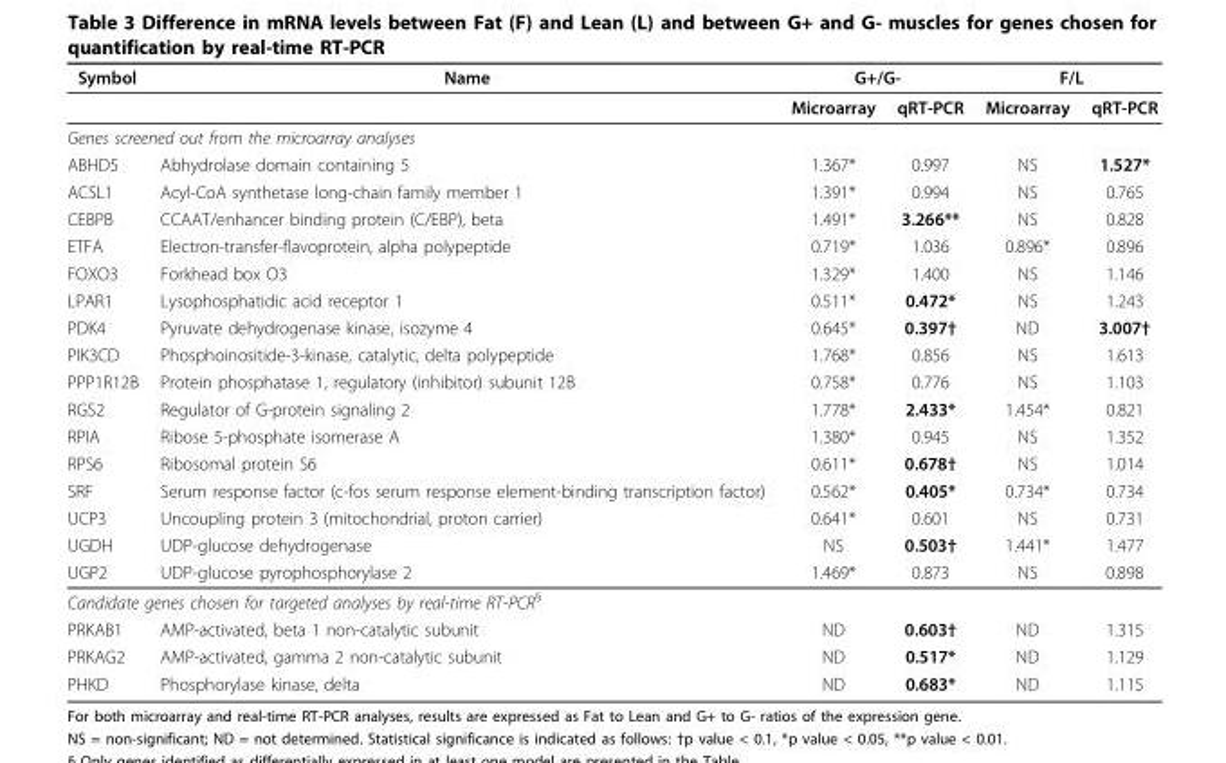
<table><thead><tr><td rowspan="2">Symbol</td><td rowspan="2">Name</td><td colspan="2">G+/G-</td><td colspan="2">F/L</td></tr><tr><td>Microarray</td><td>qRT-PCR</td><td>Microarray</td><td>qRT-PCR</td></tr></thead><tbody><tr><td colspan="6">Genes screened out from the microarray analyses</td></tr><tr><td>ABHD5</td><td>Abhydrolase domain containing 5</td><td>1.367*</td><td>0.997</td><td>NS</td><td>1.527*</td></tr><tr><td>ACSL1</td><td>Acyl-CoA synthetase long-chain family member 1</td><td>1.391*</td><td>0.994</td><td>NS</td><td>0.765</td></tr><tr><td>CEBPB</td><td>CCAAT/enhancer binding protein (C/EBP), beta</td><td>1.491*</td><td>3.266**</td><td>NS</td><td>0.828</td></tr><tr><td>ETFA</td><td>Electron-transfer-flavoprotein, alpha polypeptide</td><td>0.719*</td><td>1.036</td><td>0.896*</td><td>0.896</td></tr><tr><td>FOXO3</td><td>Forkhead box O3</td><td>1.329*</td><td>1.400</td><td>NS</td><td>1.146</td></tr><tr><td>LPAR1</td><td>Lysophosphatidic acid receptor 1</td><td>0.511*</td><td>0.472*</td><td>NS</td><td>1.243</td></tr><tr><td>PDK4</td><td>Pyruvate dehydrogenase kinase, isozyme 4</td><td>0.645*</td><td>0.397†</td><td>ND</td><td>3.007†</td></tr><tr><td>PIK3CD</td><td>Phosphoinositide-3-kinase, catalytic, delta polypeptide</td><td>1.768*</td><td>0.856</td><td>NS</td><td>1.613</td></tr><tr><td>PPP1R12B</td><td>Protein phosphatase 1, regulatory (inhibitor) subunit 12B</td><td>0.758*</td><td>0.776</td><td>NS</td><td>1.103</td></tr><tr><td>RGS2</td><td>Regulator of G-protein signaling 2</td><td>1.778*</td><td>2.433*</td><td>1.454*</td><td>0.821</td></tr><tr><td>RPIA</td><td>Ribose 5-phosphate isomerase A</td><td>1.380*</td><td>0.945</td><td>NS</td><td>1.352</td></tr><tr><td>RPS6</td><td>Ribosomal protein S6</td><td>0.611*</td><td>0.678†</td><td>NS</td><td>1.014</td></tr><tr><td>SRF</td><td>Serum response factor (c-fos serum response element-binding transcription factor)</td><td>0.562*</td><td>0.405*</td><td>0.734*</td><td>0.734</td></tr><tr><td>UCP3</td><td>Uncoupling protein 3 (mitochondrial, proton carrier)</td><td>0.641*</td><td>0.601</td><td>NS</td><td>0.731</td></tr><tr><td>UGDH</td><td>UDP-glucose dehydrogenase</td><td>NS</td><td>0.503†</td><td>1.441*</td><td>1.477</td></tr><tr><td>UGP2</td><td>UDP-glucose pyrophosphorylase 2</td><td>1.469*</td><td>0.873</td><td>NS</td><td>0.898</td></tr><tr><td colspan="6">Candidate genes chosen for targeted analyses by real-time RT-PCR<sup>§</sup></td></tr><tr><td>PRKAB1</td><td>AMP-activated, beta 1 non-catalytic subunit</td><td>ND</td><td>0.603†</td><td>ND</td><td>1.315</td></tr><tr><td>PRKAG2</td><td>AMP-activated, gamma 2 non-catalytic subunit</td><td>ND</td><td>0.517*</td><td>ND</td><td>1.129</td></tr><tr><td>PHKD</td><td>Phosphorylase kinase, delta</td><td>ND</td><td>0.683*</td><td>ND</td><td>1.115</td></tr></tbody></table>